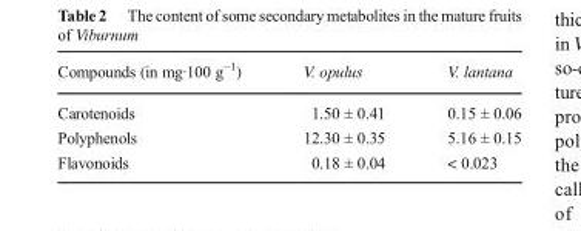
<table><thead><tr><td>Compounds (in mg·100 g<sup>−1</sup>)</td><td>V. opulus</td><td>V. lantana</td></tr></thead><tbody><tr><td>Carotenoids</td><td>1.50 ± 0.41</td><td>0.15 ± 0.06</td></tr><tr><td>Polyphenols</td><td>12.30 ± 0.35</td><td>5.16 ± 0.15</td></tr><tr><td>Flavonoids</td><td>0.18 ± 0.04</td><td>&lt; 0.023</td></tr></tbody></table>